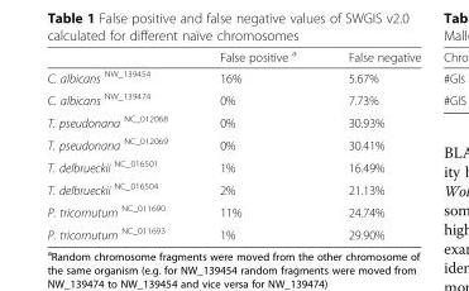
<table><thead><tr><td></td><td>False positive <sup>a</sup></td><td>False negative</td></tr></thead><tbody><tr><td>C. albicans <sup>NW_139454</sup></td><td>16%</td><td>5.67%</td></tr><tr><td>C. albicans <sup>NW_139474</sup></td><td>0%</td><td>7.73%</td></tr><tr><td>T. pseudonana <sup>NC_012068</sup></td><td>0%</td><td>30.93%</td></tr><tr><td>T. pseudonana <sup>NC_012069</sup></td><td>0%</td><td>30.41%</td></tr><tr><td>T. delbrueckii <sup>NC_016501</sup></td><td>1%</td><td>16.49%</td></tr><tr><td>T. delbrueckii <sup>NC_016504</sup></td><td>2%</td><td>21.13%</td></tr><tr><td>P. tricornutum <sup>NC_011690</sup></td><td>11%</td><td>24.74%</td></tr><tr><td>P. tricornutum <sup>NC_011693</sup></td><td>1%</td><td>29.90%</td></tr></tbody></table>